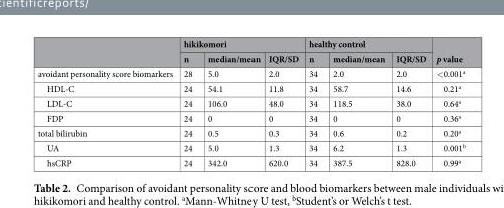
<table><thead><tr><td rowspan="2"></td><td colspan="3">hikikomori</td><td colspan="3">healthy control</td><td rowspan="2">p value</td></tr><tr><td>n</td><td>median/mean</td><td>IQR/SD</td><td>n</td><td>median/mean</td><td>IQR/SD</td></tr></thead><tbody><tr><td>avoidant personality score biomarkers</td><td>28</td><td>5.0</td><td>2.0</td><td>34</td><td>2.0</td><td>2.0</td><td>&lt;0.001<sup>a</sup></td></tr><tr><td>HDL-C</td><td>24</td><td>54.1</td><td>11.8</td><td>34</td><td>58.7</td><td>14.6</td><td>0.21<sup>a</sup></td></tr><tr><td>LDL-C</td><td>24</td><td>106.0</td><td>48.0</td><td>34</td><td>118.5</td><td>38.0</td><td>0.64<sup>a</sup></td></tr><tr><td>FDP</td><td>24</td><td>0</td><td>0</td><td>34</td><td>0</td><td>0</td><td>0.36<sup>a</sup></td></tr><tr><td>total bilirubin</td><td>24</td><td>0.5</td><td>0.3</td><td>34</td><td>0.6</td><td>0.2</td><td>0.20<sup>a</sup></td></tr><tr><td>UA</td><td>24</td><td>5.0</td><td>1.3</td><td>34</td><td>6.2</td><td>1.3</td><td>0.001<sup>b</sup></td></tr><tr><td>hsCRP</td><td>24</td><td>342.0</td><td>620.0</td><td>34</td><td>387.5</td><td>828.0</td><td>0.99<sup>a</sup></td></tr></tbody></table>